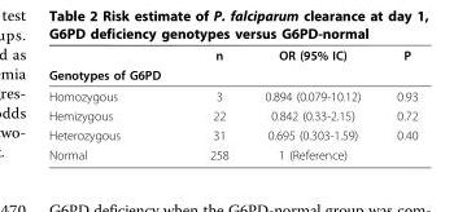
<table><thead><tr><td rowspan="2">Genotypes of G6PD</td><td rowspan="2">n</td><td rowspan="2">OR (95% IC)</td><td rowspan="2">P</td></tr><tr></tr></thead><tbody><tr><td>Homozygous</td><td>3</td><td>0.894 (0.079-10.12)</td><td>0.93</td></tr><tr><td>Hemizygous</td><td>22</td><td>0.842 (0.33-2.15)</td><td>0.72</td></tr><tr><td>Heterozygous</td><td>31</td><td>0.695 (0.303-1.59)</td><td>0.40</td></tr><tr><td>Normal</td><td>258</td><td>1 (Reference)</td><td></td></tr></tbody></table>